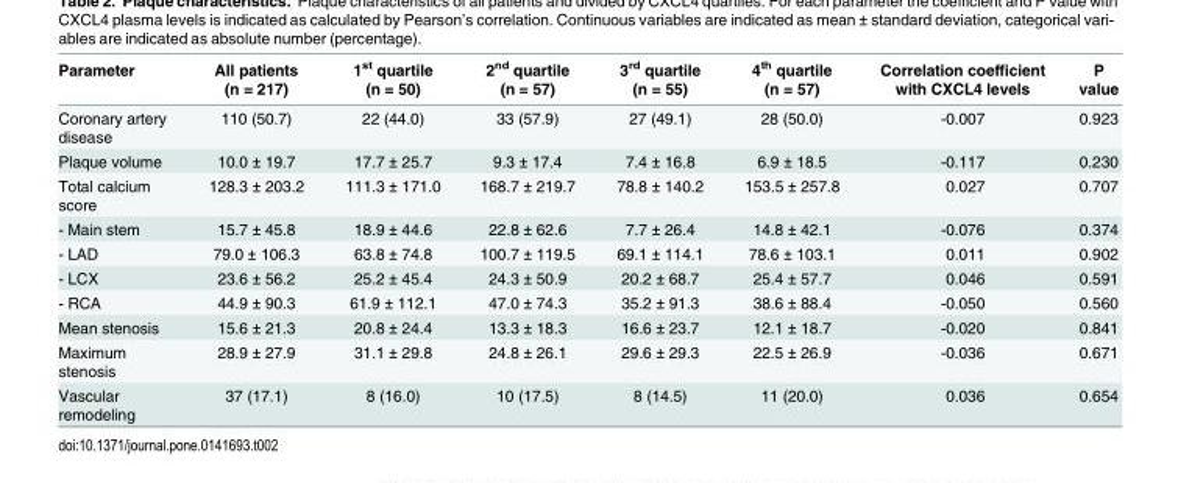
<table><thead><tr><td>Parameter</td><td>All patients (n = 217)</td><td>1<sup>st</sup> quartile (n = 50)</td><td>2<sup>nd</sup> quartile (n = 57)</td><td>3<sup>rd</sup> quartile (n = 55)</td><td>4<sup>th</sup> quartile (n = 57)</td><td>Correlation coefficient with CXCL4 levels</td><td>P value</td></tr></thead><tbody><tr><td>Coronary artery disease</td><td>110 (50.7)</td><td>22 (44.0)</td><td>33 (57.9)</td><td>27 (49.1)</td><td>28 (50.0)</td><td>-0.007</td><td>0.923</td></tr><tr><td>Plaque volume</td><td>10.0 ± 19.7</td><td>17.7 ± 25.7</td><td>9.3 ± 17.4</td><td>7.4 ± 16.8</td><td>6.9 ± 18.5</td><td>-0.117</td><td>0.230</td></tr><tr><td>Total calcium score</td><td>128.3 ± 203.2</td><td>111.3 ± 171.0</td><td>168.7 ± 219.7</td><td>78.8 ± 140.2</td><td>153.5 ± 257.8</td><td>0.027</td><td>0.707</td></tr><tr><td>- Main stem</td><td>15.7 ± 45.8</td><td>18.9 ± 44.6</td><td>22.8 ± 62.6</td><td>7.7 ± 26.4</td><td>14.8 ± 42.1</td><td>-0.076</td><td>0.374</td></tr><tr><td>- LAD</td><td>79.0 ± 106.3</td><td>63.8 ± 74.8</td><td>100.7 ± 119.5</td><td>69.1 ± 114.1</td><td>78.6 ± 103.1</td><td>0.011</td><td>0.902</td></tr><tr><td>- LCX</td><td>23.6 ± 56.2</td><td>25.2 ± 45.4</td><td>24.3 ± 50.9</td><td>20.2 ± 68.7</td><td>25.4 ± 57.7</td><td>0.046</td><td>0.591</td></tr><tr><td>- RCA</td><td>44.9 ± 90.3</td><td>61.9 ± 112.1</td><td>47.0 ± 74.3</td><td>35.2 ± 91.3</td><td>38.6 ± 88.4</td><td>-0.050</td><td>0.560</td></tr><tr><td>Mean stenosis</td><td>15.6 ± 21.3</td><td>20.8 ± 24.4</td><td>13.3 ± 18.3</td><td>16.6 ± 23.7</td><td>12.1 ± 18.7</td><td>-0.020</td><td>0.841</td></tr><tr><td>Maximum stenosis</td><td>28.9 ± 27.9</td><td>31.1 ± 29.8</td><td>24.8 ± 26.1</td><td>29.6 ± 29.3</td><td>22.5 ± 26.9</td><td>-0.036</td><td>0.671</td></tr><tr><td>Vascular remodeling</td><td>37 (17.1)</td><td>8 (16.0)</td><td>10 (17.5)</td><td>8 (14.5)</td><td>11 (20.0)</td><td>0.036</td><td>0.654</td></tr></tbody></table>